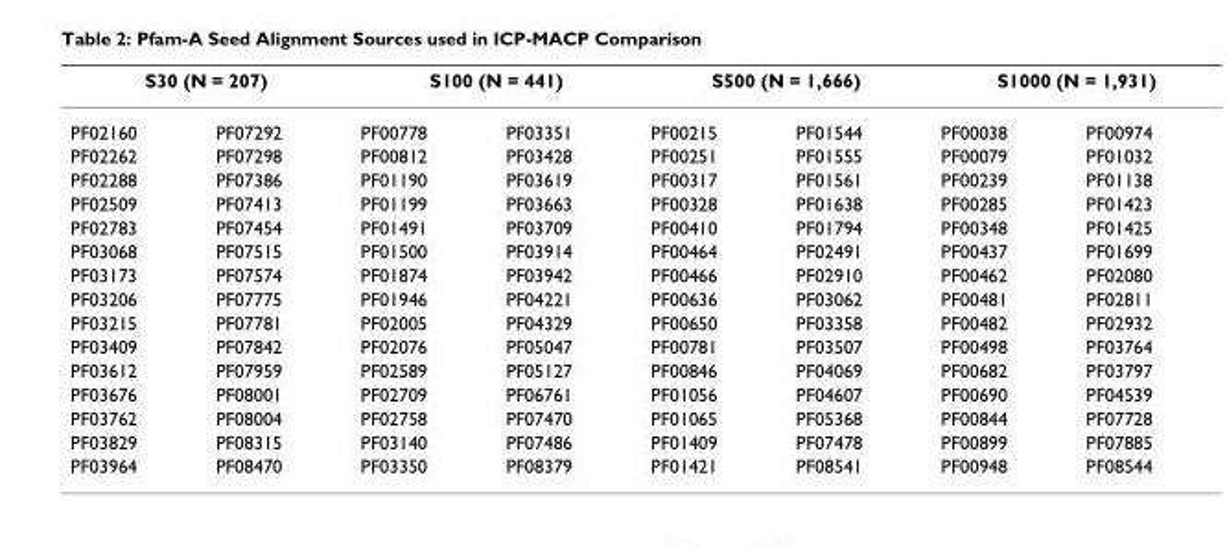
<table><thead><tr><td colspan="2">S30 (N = 207)</td><td colspan="2">S100 (N = 441)</td><td colspan="2">S500 (N = 1,666)</td><td colspan="2">S1000 (N = 1,931)</td></tr><tr><td>PF02160</td><td>PF07292</td><td>PF00778</td><td>PF03351</td><td>PF00215</td><td>PF01544</td><td>PF00038</td><td>PF00974</td></tr></thead><tbody><tr><td>PF02262</td><td>PF07298</td><td>PF00812</td><td>PF03428</td><td>PF00251</td><td>PF01555</td><td>PF00079</td><td>PF01032</td></tr><tr><td>PF02288</td><td>PF07386</td><td>PF01190</td><td>PF03619</td><td>PF00317</td><td>PF01561</td><td>PF00239</td><td>PF01138</td></tr><tr><td>PF02509</td><td>PF07413</td><td>PF01199</td><td>PF03663</td><td>PF00328</td><td>PF01638</td><td>PF00285</td><td>PF01423</td></tr><tr><td>PF02783</td><td>PF07454</td><td>PF01491</td><td>PF03709</td><td>PF00410</td><td>PF01794</td><td>PF00348</td><td>PF01425</td></tr><tr><td>PF03068</td><td>PF07515</td><td>PF01500</td><td>PF03914</td><td>PF00464</td><td>PF02491</td><td>PF00437</td><td>PF01699</td></tr><tr><td>PF03173</td><td>PF07574</td><td>PF01874</td><td>PF03942</td><td>PF00466</td><td>PF02910</td><td>PF00462</td><td>PF02080</td></tr><tr><td>PF03206</td><td>PF07775</td><td>PF01946</td><td>PF04221</td><td>PF00636</td><td>PF03062</td><td>PF00481</td><td>PF02811</td></tr><tr><td>PF03215</td><td>PF07781</td><td>PF02005</td><td>PF04329</td><td>PF00650</td><td>PF03358</td><td>PF00482</td><td>PF02932</td></tr><tr><td>PF03409</td><td>PF07842</td><td>PF02076</td><td>PF05047</td><td>PF00781</td><td>PF03507</td><td>PF00498</td><td>PF03764</td></tr><tr><td>PF03612</td><td>PF07959</td><td>PF02589</td><td>PF05127</td><td>PF00846</td><td>PF04069</td><td>PF00682</td><td>PF03797</td></tr><tr><td>PF03676</td><td>PF08001</td><td>PF02709</td><td>PF06761</td><td>PF01056</td><td>PF04607</td><td>PF00690</td><td>PF04539</td></tr><tr><td>PF03762</td><td>PF08004</td><td>PF02758</td><td>PF07470</td><td>PF01065</td><td>PF05368</td><td>PF00844</td><td>PF07728</td></tr><tr><td>PF03829</td><td>PF08315</td><td>PF03140</td><td>PF07486</td><td>PF01409</td><td>PF07478</td><td>PF00899</td><td>PF07885</td></tr><tr><td>PF03964</td><td>PF08470</td><td>PF03350</td><td>PF08379</td><td>PF01421</td><td>PF08541</td><td>PF00948</td><td>PF08544</td></tr></tbody></table>